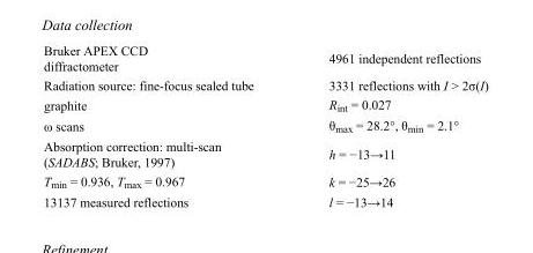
<table><tbody><tr><td>Bruker APEX CCD diffractometer</td><td>4961 independent reflections</td></tr><tr><td>Radiation source: fine-focus sealed tube</td><td>3331 reflections with I &gt; 2σ(I)</td></tr><tr><td>graphite</td><td>R<sub>int</sub> = 0.027</td></tr><tr><td>ω scans</td><td>θ<sub>max</sub> = 28.2°, θ<sub>min</sub> = 2.1°</td></tr><tr><td>Absorption correction: multi-scan (SADABS; Bruker, 1997)</td><td>h = −13→11</td></tr><tr><td>T<sub>min</sub> = 0.936, T<sub>max</sub> = 0.967</td><td>k = −25→26</td></tr><tr><td>13137 measured reflections</td><td>l = −13→14</td></tr></tbody></table>